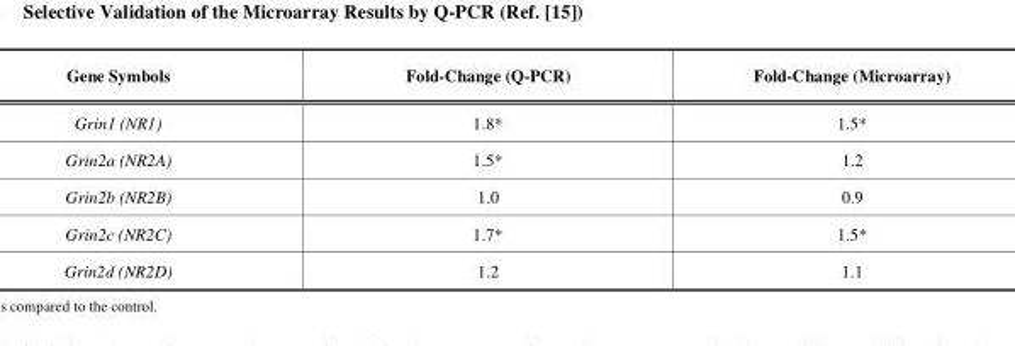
<table><thead><tr><td>Gene Symbols</td><td>Fold-Change (Q-PCR)</td><td>Fold-Change (Microarray)</td></tr></thead><tbody><tr><td>Grin1 (NR1)</td><td>1.8*</td><td>1.5*</td></tr><tr><td>Grin2a (NR2A)</td><td>1.5*</td><td>1.2</td></tr><tr><td>Grin2b (NR2B)</td><td>1.0</td><td>0.9</td></tr><tr><td>Grin2c (NR2C)</td><td>1.7*</td><td>1.5*</td></tr><tr><td>Grin2d (NR2D)</td><td>1.2</td><td>1.1</td></tr></tbody></table>